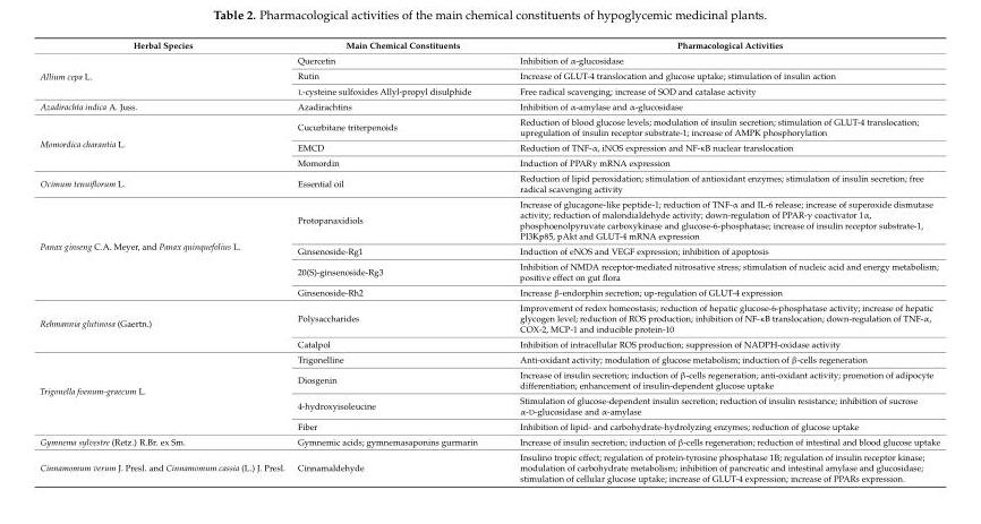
<table><thead><tr><td>Herbal Species</td><td>Main Chemical Constituents</td><td>Pharmacological Activities</td></tr></thead><tbody><tr><td rowspan="3">Allium cepa L.</td><td>Quercetin</td><td>Inhibition of α-glucosidase</td></tr><tr><td>Rutin</td><td>Increase of GLUT-4 translocation and glucose uptake; stimulation of insulin action</td></tr><tr><td>L-cysteine sulfoxides Allyl-propyl disulphide</td><td>Free radical scavenging; increase of SOD and catalase activity</td></tr><tr><td>Azadirachta indica A. Juss.</td><td>Azadirachtins</td><td>Inhibition of α-amylase and α-glucosidase</td></tr><tr><td rowspan="3">Momordica charantia L.</td><td>Cucurbitane triterpenoids</td><td>Reduction of blood glucose levels; modulation of insulin secretion; stimulation of GLUT-4 translocation; upregulation of insulin receptor substrate-1; increase of AMPK phosphorylation</td></tr><tr><td>EMCD</td><td>Reduction of TNF-α, iNOS expression and NF-κB nuclear translocation</td></tr><tr><td>Momordin</td><td>Induction of PPARγ mRNA expression</td></tr><tr><td>Ocimum tenuiflorum L.</td><td>Essential oil</td><td>Reduction of lipid peroxidation; stimulation of antioxidant enzymes; stimulation of insulin secretion; free radical scavenging activity</td></tr><tr><td rowspan="4">Panax ginseng C.A. Meyer, and Panax quinquefolius L.</td><td>Protopanaxidiols</td><td>Increase of glucagone-like peptide-1; reduction of TNF-α and IL-6 release; increase of superoxide dismutase activity; reduction of malondialdehyde activity; down-regulation of PPAR-γ coactivator 1α, phosphoenolpyruvate carboxykinase and glucose-6-phosphatase; increase of insulin receptor substrate-1, PI3Kp85, pAkt and GLUT-4 mRNA expression</td></tr><tr><td>Ginsenoside-Rg1</td><td>Induction of eNOS and VEGF expression; inhibition of apoptosis</td></tr><tr><td>20(S)-ginsenoside-Rg3</td><td>Inhibition of NMDA receptor-mediated nitrosative stress; stimulation of nucleic acid and energy metabolism; positive effect on gut flora</td></tr><tr><td>Ginsenoside-Rh2</td><td>Increase β-endorphin secretion; up-regulation of GLUT-4 expression</td></tr><tr><td rowspan="2">Rehmannia glutinosa (Gaertn.)</td><td>Polysaccharides</td><td>Improvement of redox homeostasis; reduction of hepatic glucose-6-phosphatase activity; increase of hepatic glycogen level; reduction of ROS production; inhibition of NF-κB translocation; down-regulation of TNF-α, COX-2, MCP-1 and inducible protein-10</td></tr><tr><td>Catalpol</td><td>Inhibition of intracellular ROS production; suppression of NADPH-oxidase activity</td></tr><tr><td rowspan="4">Trigonella foenum-graecum L.</td><td>Trigonelline</td><td>Anti-oxidant activity; modulation of glucose metabolism; induction of β-cells regeneration</td></tr><tr><td>Diosgenin</td><td>Increase of insulin secretion; induction of β-cells regeneration; anti-oxidant activity; promotion of adipocyte differentiation; enhancement of insulin-dependent glucose uptake</td></tr><tr><td>4-hydroxyisoleucine</td><td>Stimulation of glucose-dependent insulin secretion; reduction of insulin resistance; inhibition of sucrose α-D-glucosidase and α-amylase</td></tr><tr><td>Fiber</td><td>Inhibition of lipid- and carbohydrate-hydrolyzing enzymes; reduction of glucose uptake</td></tr><tr><td>Gymnema sylvestre (Retz.) R.Br. ex Sm.</td><td>Gymnemic acids; gymnemasaponins gurmarin</td><td>Increase of insulin secretion; induction of β-cells regeneration; reduction of intestinal and blood glucose uptake</td></tr><tr><td>Cinnamomum verum J. Presl. and Cinnamomum cassia (L.) J. Presl.</td><td>Cinnamaldehyde</td><td>Insulino tropic effect; regulation of protein-tyrosine phosphatase 1B; regulation of insulin receptor kinase; modulation of carbohydrate metabolism; inhibition of pancreatic and intestinal amylase and glucosidase; stimulation of cellular glucose uptake; increase of GLUT-4 expression; increase of PPARs expression.</td></tr></tbody></table>